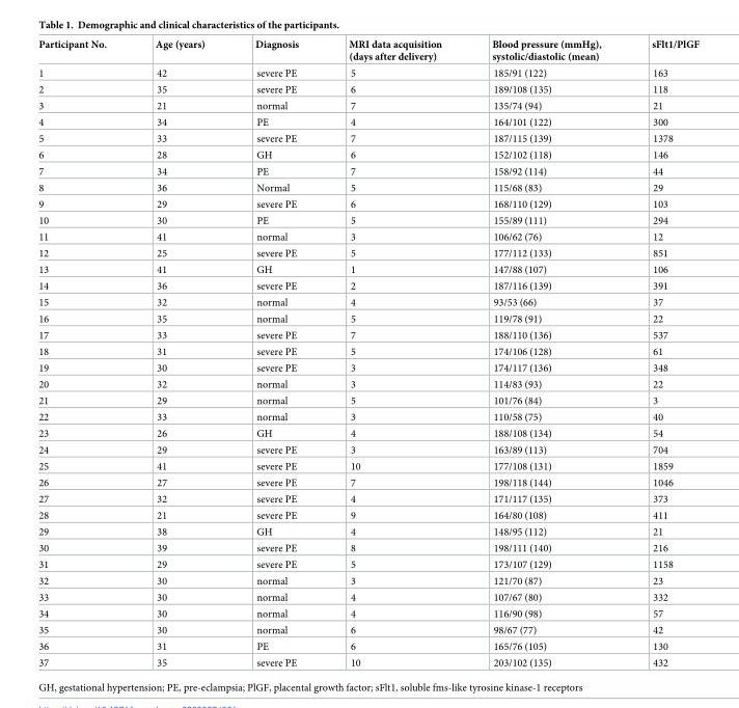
<table><thead><tr><td>Participant No.</td><td>Age (years)</td><td>Diagnosis</td><td>MRI data acquisition (days after delivery)</td><td>Blood pressure (mmHg), systolic/diastolic (mean)</td><td>sFlt1/PlGF</td></tr></thead><tbody><tr><td>1</td><td>42</td><td>severe PE</td><td>5</td><td>185/91 (122)</td><td>163</td></tr><tr><td>2</td><td>35</td><td>severe PE</td><td>6</td><td>189/108 (135)</td><td>118</td></tr><tr><td>3</td><td>21</td><td>normal</td><td>7</td><td>135/74 (94)</td><td>21</td></tr><tr><td>4</td><td>34</td><td>PE</td><td>4</td><td>164/101 (122)</td><td>300</td></tr><tr><td>5</td><td>33</td><td>severe PE</td><td>7</td><td>187/115 (139)</td><td>1378</td></tr><tr><td>6</td><td>28</td><td>GH</td><td>6</td><td>152/102 (118)</td><td>146</td></tr><tr><td>7</td><td>34</td><td>PE</td><td>7</td><td>158/92 (114)</td><td>44</td></tr><tr><td>8</td><td>36</td><td>Normal</td><td>5</td><td>115/68 (83)</td><td>29</td></tr><tr><td>9</td><td>29</td><td>severe PE</td><td>6</td><td>168/110 (129)</td><td>103</td></tr><tr><td>10</td><td>30</td><td>PE</td><td>5</td><td>155/89 (111)</td><td>294</td></tr><tr><td>11</td><td>41</td><td>normal</td><td>3</td><td>106/62 (76)</td><td>12</td></tr><tr><td>12</td><td>25</td><td>severe PE</td><td>5</td><td>177/112 (133)</td><td>851</td></tr><tr><td>13</td><td>41</td><td>GH</td><td>1</td><td>147/88 (107)</td><td>106</td></tr><tr><td>14</td><td>36</td><td>severe PE</td><td>2</td><td>187/116 (139)</td><td>391</td></tr><tr><td>15</td><td>32</td><td>normal</td><td>4</td><td>93/53 (66)</td><td>37</td></tr><tr><td>16</td><td>35</td><td>normal</td><td>5</td><td>119/78 (91)</td><td>22</td></tr><tr><td>17</td><td>33</td><td>severe PE</td><td>7</td><td>188/110 (136)</td><td>537</td></tr><tr><td>18</td><td>31</td><td>severe PE</td><td>5</td><td>174/106 (128)</td><td>61</td></tr><tr><td>19</td><td>30</td><td>severe PE</td><td>3</td><td>174/117 (136)</td><td>348</td></tr><tr><td>20</td><td>32</td><td>normal</td><td>3</td><td>114/83 (93)</td><td>22</td></tr><tr><td>21</td><td>29</td><td>normal</td><td>5</td><td>101/76 (84)</td><td>3</td></tr><tr><td>22</td><td>33</td><td>normal</td><td>3</td><td>110/58 (75)</td><td>40</td></tr><tr><td>23</td><td>26</td><td>GH</td><td>4</td><td>188/108 (134)</td><td>54</td></tr><tr><td>24</td><td>29</td><td>severe PE</td><td>3</td><td>163/89 (113)</td><td>704</td></tr><tr><td>25</td><td>41</td><td>severe PE</td><td>10</td><td>177/108 (131)</td><td>1859</td></tr><tr><td>26</td><td>27</td><td>severe PE</td><td>7</td><td>198/118 (144)</td><td>1046</td></tr><tr><td>27</td><td>32</td><td>severe PE</td><td>4</td><td>171/117 (135)</td><td>373</td></tr><tr><td>28</td><td>21</td><td>severe PE</td><td>9</td><td>164/80 (108)</td><td>411</td></tr><tr><td>29</td><td>38</td><td>GH</td><td>4</td><td>148/95 (112)</td><td>21</td></tr><tr><td>30</td><td>39</td><td>severe PE</td><td>8</td><td>198/111 (140)</td><td>216</td></tr><tr><td>31</td><td>29</td><td>severe PE</td><td>5</td><td>173/107 (129)</td><td>1158</td></tr><tr><td>32</td><td>30</td><td>normal</td><td>3</td><td>121/70 (87)</td><td>23</td></tr><tr><td>33</td><td>30</td><td>normal</td><td>4</td><td>107/67 (80)</td><td>332</td></tr><tr><td>34</td><td>30</td><td>normal</td><td>4</td><td>116/90 (98)</td><td>57</td></tr><tr><td>35</td><td>30</td><td>normal</td><td>6</td><td>98/67 (77)</td><td>42</td></tr><tr><td>36</td><td>31</td><td>PE</td><td>6</td><td>165/76 (105)</td><td>130</td></tr><tr><td>37</td><td>35</td><td>severe PE</td><td>10</td><td>203/102 (135)</td><td>432</td></tr></tbody></table>